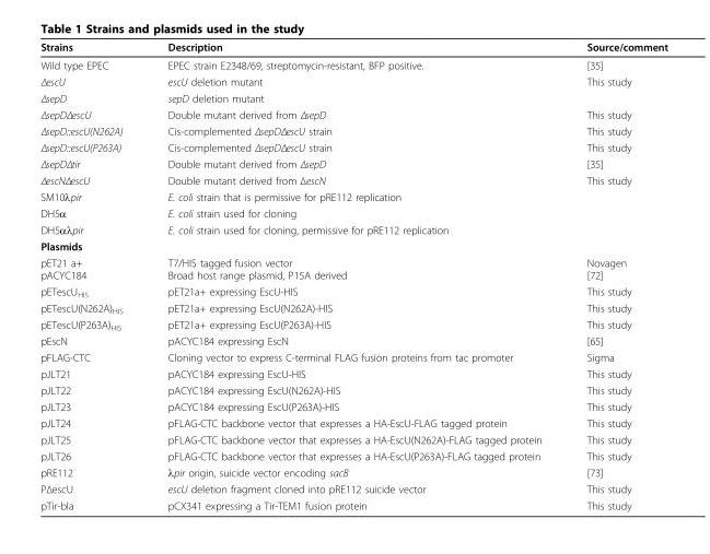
<table><thead><tr><td>Strains</td><td>Description</td><td>Source/comment</td></tr></thead><tbody><tr><td>Wild type EPEC</td><td>EPEC strain E2348/69, streptomycin-resistant, BFP positive.</td><td>[35]</td></tr><tr><td>ΔescU</td><td>escU deletion mutant</td><td>This study</td></tr><tr><td>ΔsepD</td><td>sepD deletion mutant</td><td></td></tr><tr><td>ΔsepDΔescU</td><td>Double mutant derived from ΔsepD</td><td>This study</td></tr><tr><td>ΔsepD::escU(N262A)</td><td>Cis-complemented ΔsepDΔescU strain</td><td>This study</td></tr><tr><td>ΔsepD::escU(P263A)</td><td>Cis-complemented ΔsepDΔescU strain</td><td>This study</td></tr><tr><td>ΔsepDΔtir</td><td>Double mutant derived from ΔsepD</td><td>[35]</td></tr><tr><td>ΔescNΔescU</td><td>Double mutant derived from ΔescN</td><td>This study</td></tr><tr><td>SM10λpir</td><td>E. coli strain that is permissive for pRE112 replication</td><td></td></tr><tr><td>DH5α</td><td>E. coli strain used for cloning</td><td></td></tr><tr><td>DH5αλpir</td><td>E. coli strain used for cloning, permissive for pRE112 replication</td><td></td></tr><tr><td colspan="3">Plasmids</td></tr><tr><td>pET21 a+ pACYC184</td><td>T7/HIS tagged fusion vector Broad host range plasmid, P15A derived</td><td>Novagen [72]</td></tr><tr><td>pETescU<sub>HIS</sub></td><td>pET21a+ expressing EscU-HIS</td><td>This study</td></tr><tr><td>pETescU(N262A)<sub>HIS</sub></td><td>pET21a+ expressing EscU(N262A)-HIS</td><td>This study</td></tr><tr><td>pETescU(P263A)<sub>HIS</sub></td><td>pET21a+ expressing EscU(P263A)-HIS</td><td>This study</td></tr><tr><td>pEscN</td><td>pACYC184 expressing EscN</td><td>[65]</td></tr><tr><td>pFLAG-CTC</td><td>Cloning vector to express C-terminal FLAG fusion proteins from tac promoter</td><td>Sigma</td></tr><tr><td>pJLT21</td><td>pACYC184 expressing EscU-HIS</td><td>This study</td></tr><tr><td>pJLT22</td><td>pACYC184 expressing EscU(N262A)-HIS</td><td>This study</td></tr><tr><td>pJLT23</td><td>pACYC184 expressing EscU(P263A)-HIS</td><td>This study</td></tr><tr><td>pJLT24</td><td>pFLAG-CTC backbone vector that expresses a HA-EscU-FLAG tagged protein</td><td>This study</td></tr><tr><td>pJLT25</td><td>pFLAG-CTC backbone vector that expresses a HA-EscU(N262A)-FLAG tagged protein</td><td>This study</td></tr><tr><td>pJLT26</td><td>pFLAG-CTC backbone vector that expresses a HA-EscU(P263A)-FLAG tagged protein</td><td>This study</td></tr><tr><td>pRE112</td><td>λpir origin, suicide vector encoding sacB</td><td>[73]</td></tr><tr><td>PΔescU</td><td>escU deletion fragment cloned into pRE112 suicide vector</td><td>This study</td></tr><tr><td>pTir-bla</td><td>pCX341 expressing a Tir-TEM1 fusion protein</td><td>This study</td></tr></tbody></table>